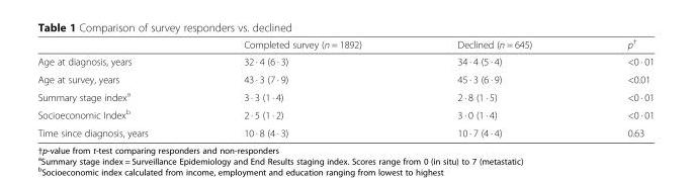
<table><thead><tr><td></td><td>Completed survey (n = 1892)</td><td>Declined (n = 645)</td><td>p<sup>†</sup></td></tr></thead><tbody><tr><td>Age at diagnosis, years</td><td>32 · 4 (6 · 3)</td><td>34 · 4 (5 · 4)</td><td>&lt;0 · 01</td></tr><tr><td>Age at survey, years</td><td>43 · 3 (7 · 9)</td><td>45 · 3 (6 · 9)</td><td>&lt;0.01</td></tr><tr><td>Summary stage index<sup>a</sup></td><td>3 · 3 (1 · 4)</td><td>2 · 8 (1 · 5)</td><td>&lt;0 · 01</td></tr><tr><td>Socioeconomic Index<sup>b</sup></td><td>2 · 5 (1 · 2)</td><td>3 · 0 (1 · 4)</td><td>&lt;0 · 01</td></tr><tr><td>Time since diagnosis, years</td><td>10 · 8 (4 · 3)</td><td>10 · 7 (4 · 4)</td><td>0.63</td></tr></tbody></table>